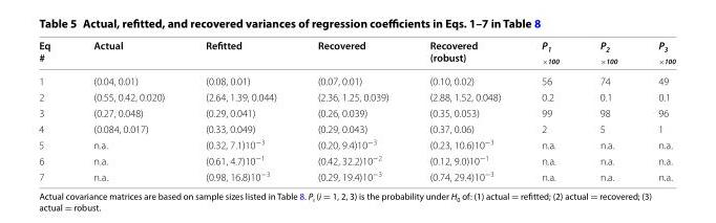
<table><thead><tr><td>Eq #</td><td>Actual</td><td>Refitted</td><td>Recovered</td><td>Recovered (robust)</td><td>P<sub>1 ×100</sub></td><td>P<sub>2 ×100</sub></td><td>P<sub>3 ×100</sub></td></tr></thead><tbody><tr><td>1</td><td>(0.04, 0.01)</td><td>(0.08, 0.01)</td><td>(0.07, 0.01)</td><td>(0.10, 0.02)</td><td>56</td><td>74</td><td>49</td></tr><tr><td>2</td><td>(0.55, 0.42, 0.020)</td><td>(2.64, 1.39, 0.044)</td><td>(2.36, 1.25, 0.039)</td><td>(2.88, 1.52, 0.048)</td><td>0.2</td><td>0.1</td><td>0.1</td></tr><tr><td>3</td><td>(0.27, 0.048)</td><td>(0.29, 0.041)</td><td>(0.26, 0.039)</td><td>(0.35, 0.053)</td><td>99</td><td>98</td><td>96</td></tr><tr><td>4</td><td>(0.084, 0.017)</td><td>(0.33, 0.049)</td><td>(0.29, 0.043)</td><td>(0.37, 0.06)</td><td>2</td><td>5</td><td>1</td></tr><tr><td>5</td><td>n.a.</td><td>(0.32, 7.1)10<sup>−3</sup></td><td>(0.20, 9.4)10<sup>−3</sup></td><td>(0.23, 10.6)10<sup>−3</sup></td><td>n.a.</td><td>n.a.</td><td>n.a.</td></tr><tr><td>6</td><td>n.a.</td><td>(0.61, 4.7)10<sup>−1</sup></td><td>(0.42, 32.2)10<sup>−2</sup></td><td>(0.12, 9.0)10<sup>−1</sup></td><td>n.a.</td><td>n.a.</td><td>n.a.</td></tr><tr><td>7</td><td>n.a.</td><td>(0.98, 16.8)10<sup>−3</sup></td><td>(0.29, 19.4)10<sup>−3</sup></td><td>(0.74, 29.4)10<sup>−3</sup></td><td>n.a.</td><td>n.a.</td><td>n.a.</td></tr></tbody></table>